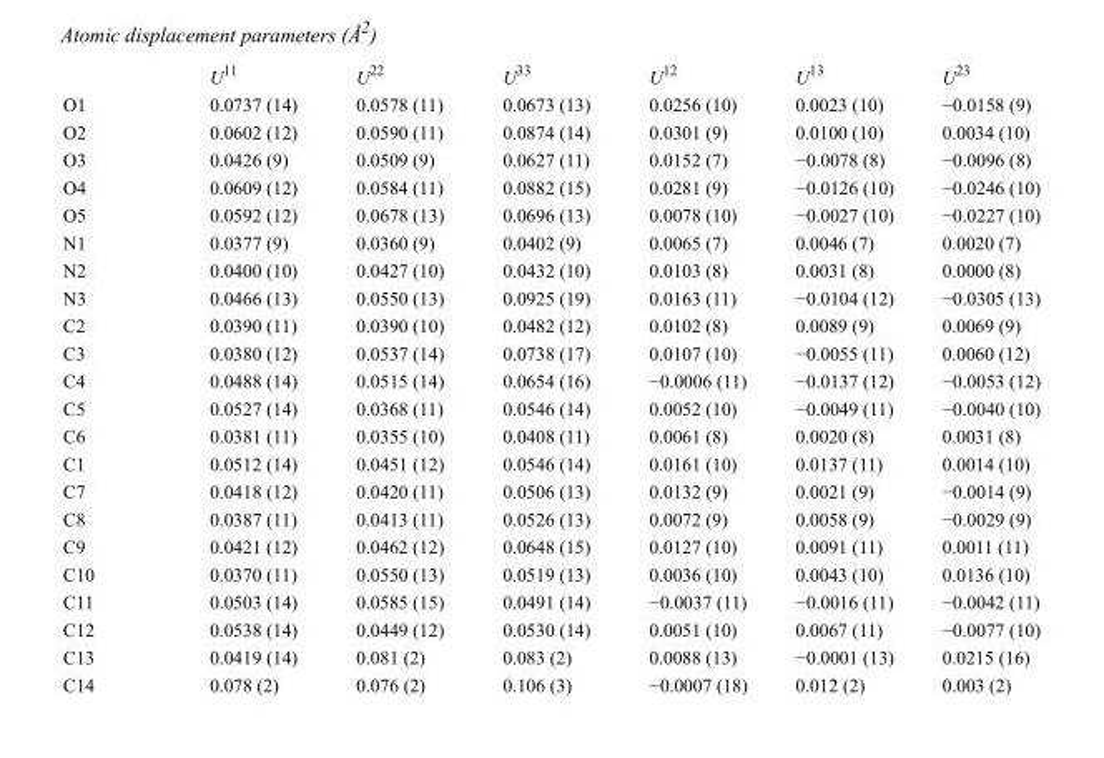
<table><thead><tr><td></td><td>U<sup>11</sup></td><td>U<sup>22</sup></td><td>U<sup>33</sup></td><td>U<sup>12</sup></td><td>U<sup>13</sup></td><td>U<sup>23</sup></td></tr></thead><tbody><tr><td>O1</td><td>0.0737 (14)</td><td>0.0578 (11)</td><td>0.0673 (13)</td><td>0.0256 (10)</td><td>0.0023 (10)</td><td>−0.0158 (9)</td></tr><tr><td>O2</td><td>0.0602 (12)</td><td>0.0590 (11)</td><td>0.0874 (14)</td><td>0.0301 (9)</td><td>0.0100 (10)</td><td>0.0034 (10)</td></tr><tr><td>O3</td><td>0.0426 (9)</td><td>0.0509 (9)</td><td>0.0627 (11)</td><td>0.0152 (7)</td><td>−0.0078 (8)</td><td>−0.0096 (8)</td></tr><tr><td>O4</td><td>0.0609 (12)</td><td>0.0584 (11)</td><td>0.0882 (15)</td><td>0.0281 (9)</td><td>−0.0126 (10)</td><td>−0.0246 (10)</td></tr><tr><td>O5</td><td>0.0592 (12)</td><td>0.0678 (13)</td><td>0.0696 (13)</td><td>0.0078 (10)</td><td>−0.0027 (10)</td><td>−0.0227 (10)</td></tr><tr><td>N1</td><td>0.0377 (9)</td><td>0.0360 (9)</td><td>0.0402 (9)</td><td>0.0065 (7)</td><td>0.0046 (7)</td><td>0.0020 (7)</td></tr><tr><td>N2</td><td>0.0400 (10)</td><td>0.0427 (10)</td><td>0.0432 (10)</td><td>0.0103 (8)</td><td>0.0031 (8)</td><td>0.0000 (8)</td></tr><tr><td>N3</td><td>0.0466 (13)</td><td>0.0550 (13)</td><td>0.0925 (19)</td><td>0.0163 (11)</td><td>−0.0104 (12)</td><td>−0.0305 (13)</td></tr><tr><td>C2</td><td>0.0390 (11)</td><td>0.0390 (10)</td><td>0.0482 (12)</td><td>0.0102 (8)</td><td>0.0089 (9)</td><td>0.0069 (9)</td></tr><tr><td>C3</td><td>0.0380 (12)</td><td>0.0537 (14)</td><td>0.0738 (17)</td><td>0.0107 (10)</td><td>−0.0055 (11)</td><td>0.0060 (12)</td></tr><tr><td>C4</td><td>0.0488 (14)</td><td>0.0515 (14)</td><td>0.0654 (16)</td><td>−0.0006 (11)</td><td>−0.0137 (12)</td><td>−0.0053 (12)</td></tr><tr><td>C5</td><td>0.0527 (14)</td><td>0.0368 (11)</td><td>0.0546 (14)</td><td>0.0052 (10)</td><td>−0.0049 (11)</td><td>−0.0040 (10)</td></tr><tr><td>C6</td><td>0.0381 (11)</td><td>0.0355 (10)</td><td>0.0408 (11)</td><td>0.0061 (8)</td><td>0.0020 (8)</td><td>0.0031 (8)</td></tr><tr><td>C1</td><td>0.0512 (14)</td><td>0.0451 (12)</td><td>0.0546 (14)</td><td>0.0161 (10)</td><td>0.0137 (11)</td><td>0.0014 (10)</td></tr><tr><td>C7</td><td>0.0418 (12)</td><td>0.0420 (11)</td><td>0.0506 (13)</td><td>0.0132 (9)</td><td>0.0021 (9)</td><td>−0.0014 (9)</td></tr><tr><td>C8</td><td>0.0387 (11)</td><td>0.0413 (11)</td><td>0.0526 (13)</td><td>0.0072 (9)</td><td>0.0058 (9)</td><td>−0.0029 (9)</td></tr><tr><td>C9</td><td>0.0421 (12)</td><td>0.0462 (12)</td><td>0.0648 (15)</td><td>0.0127 (10)</td><td>0.0091 (11)</td><td>0.0011 (11)</td></tr><tr><td>C10</td><td>0.0370 (11)</td><td>0.0550 (13)</td><td>0.0519 (13)</td><td>0.0036 (10)</td><td>0.0043 (10)</td><td>0.0136 (10)</td></tr><tr><td>C11</td><td>0.0503 (14)</td><td>0.0585 (15)</td><td>0.0491 (14)</td><td>−0.0037 (11)</td><td>−0.0016 (11)</td><td>−0.0042 (11)</td></tr><tr><td>C12</td><td>0.0538 (14)</td><td>0.0449 (12)</td><td>0.0530 (14)</td><td>0.0051 (10)</td><td>0.0067 (11)</td><td>−0.0077 (10)</td></tr><tr><td>C13</td><td>0.0419 (14)</td><td>0.081 (2)</td><td>0.083 (2)</td><td>0.0088 (13)</td><td>−0.0001 (13)</td><td>0.0215 (16)</td></tr><tr><td>C14</td><td>0.078 (2)</td><td>0.076 (2)</td><td>0.106 (3)</td><td>−0.0007 (18)</td><td>0.012 (2)</td><td>0.003 (2)</td></tr></tbody></table>